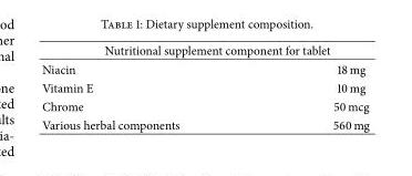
<table><thead><tr><td colspan="2">Nutritional supplement component for tablet</td></tr><tr><td>Niacin</td><td>18 mg</td></tr></thead><tbody><tr><td>Vitamin E</td><td>10 mg</td></tr><tr><td>Chrome</td><td>50 mcg</td></tr><tr><td>Various herbal components</td><td>560 mg</td></tr></tbody></table>